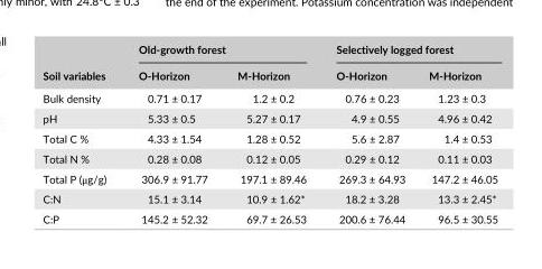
<table><thead><tr><td rowspan="2">Soil variables</td><td colspan="2">Old- growth forest</td><td colspan="2">Selectively logged forest</td></tr><tr><td>O- Horizon</td><td>M- Horizon</td><td>O- Horizon</td><td>M- Horizon</td></tr></thead><tbody><tr><td>Bulk density</td><td>0.71 ± 0.17</td><td>1.2 ± 0.2</td><td>0.76 ± 0.23</td><td>1.23 ± 0.3</td></tr><tr><td>pH</td><td>5.33 ± 0.5</td><td>5.27 ± 0.17</td><td>4.9 ± 0.55</td><td>4.96 ± 0.42</td></tr><tr><td>Total C %</td><td>4.33 ± 1.54</td><td>1.28 ± 0.52</td><td>5.6 ± 2.87</td><td>1.4 ± 0.53</td></tr><tr><td>Total N %</td><td>0.28 ± 0.08</td><td>0.12 ± 0.05</td><td>0.29 ± 0.12</td><td>0.11 ± 0.03</td></tr><tr><td>Total P (μg/g)</td><td>306.9 ± 91.77</td><td>197.1 ± 89.46</td><td>269.3 ± 64.93</td><td>147.2 ± 46.05</td></tr><tr><td>C:N</td><td>15.1 ± 3.14</td><td>10.9 ± 1.62*</td><td>18.2 ± 3.28</td><td>13.3 ± 2.45*</td></tr><tr><td>C:P</td><td>145.2 ± 52.32</td><td>69.7 ± 26.53</td><td>200.6 ± 76.44</td><td>96.5 ± 30.55</td></tr></tbody></table>